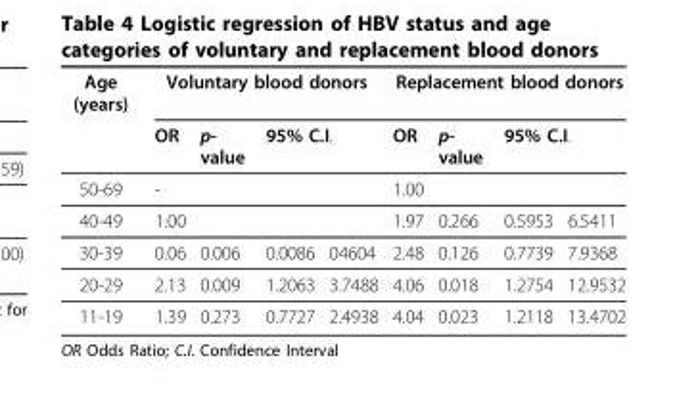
<table><thead><tr><td rowspan="3">Age (years) 50-69</td><td colspan="4">Voluntary blood donors</td><td colspan="4">Replacement blood donors</td></tr><tr><td rowspan="2">OR -</td><td rowspan="2">p- value</td><td colspan="2">95% C.I.</td><td rowspan="2">OR 1.00</td><td rowspan="2">p- value</td><td colspan="2">95% C.I.</td></tr><tr><td></td><td></td><td></td><td></td></tr></thead><tbody><tr><td>40-49</td><td>1.00</td><td></td><td></td><td></td><td>1.97</td><td>0.266</td><td>0.5953</td><td>6.5411</td></tr><tr><td>30-39</td><td>0.06</td><td>0.006</td><td>0.0086</td><td>04604</td><td>2.48</td><td>0.126</td><td>0.7739</td><td>7.9368</td></tr><tr><td>20-29</td><td>2.13</td><td>0.009</td><td>1.2063</td><td>3.7488</td><td>4.06</td><td>0.018</td><td>1.2754</td><td>12.9532</td></tr><tr><td>11-19</td><td>1.39</td><td>0.273</td><td>0.7727</td><td>2.4938</td><td>4.04</td><td>0.023</td><td>1.2118</td><td>13.4702</td></tr></tbody></table>